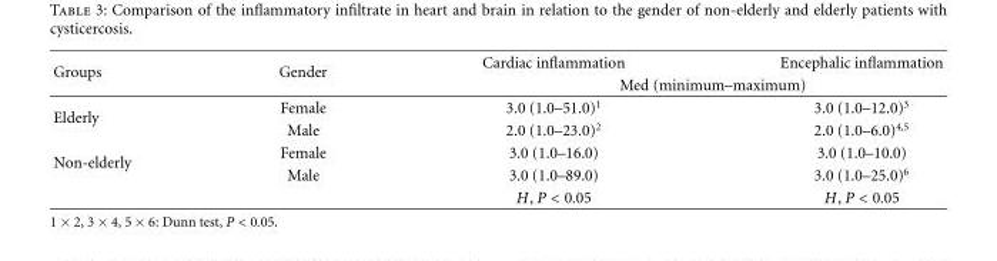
<table><thead><tr><td rowspan="2">Groups</td><td rowspan="2">Gender</td><td>Cardiac inflammation</td><td>Encephalic inflammation</td></tr><tr><td colspan="2">Med (minimum–maximum)</td></tr></thead><tbody><tr><td rowspan="2">Elderly</td><td>Female</td><td>3.0 (1.0–51.0)<sup>1</sup></td><td>3.0 (1.0–12.0)<sup>3</sup></td></tr><tr><td>Male</td><td>2.0 (1.0–23.0)<sup>2</sup></td><td>2.0 (1.0–6.0)<sup>4,5</sup></td></tr><tr><td rowspan="3">Non-elderly</td><td>Female</td><td>3.0 (1.0–16.0)</td><td>3.0 (1.0–10.0)</td></tr><tr><td>Male</td><td>3.0 (1.0–89.0)</td><td>3.0 (1.0–25.0)<sup>6</sup></td></tr><tr><td></td><td>H, P &lt; 0.05</td><td>H, P &lt; 0.05</td></tr></tbody></table>